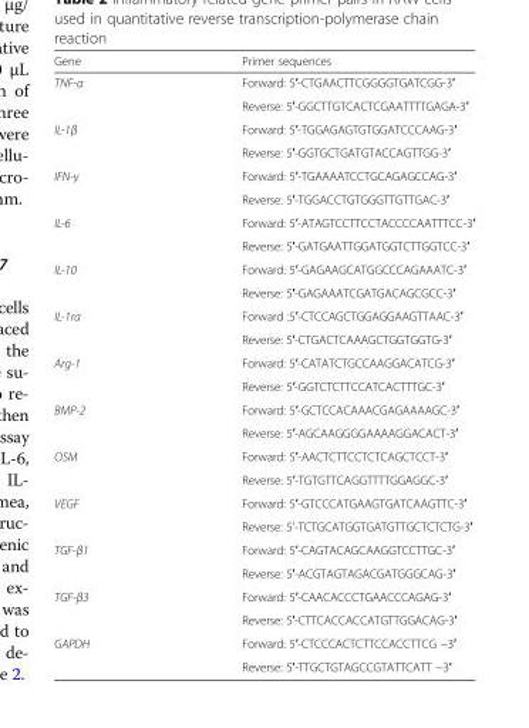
<table><thead><tr><td>Gene</td><td>Primer sequences</td></tr></thead><tbody><tr><td rowspan="2">TNF-α</td><td>Forward: 5′-CTGAACTTCGGGGTGATCGG-3′</td></tr><tr><td>Reverse: 5′-GGCTTGTCACTCGAATTTTGAGA-3′</td></tr><tr><td rowspan="2">IL-1β</td><td>Forward: 5′-TGGAGAGTGTGGATCCCAAG-3′</td></tr><tr><td>Reverse: 5′-GGTGCTGATGTACCAGTTGG-3′</td></tr><tr><td rowspan="2">IFN-γ</td><td>Forward: 5′-TGAAAATCCTGCAGAGCCAG-3′</td></tr><tr><td>Reverse: 5′-TGGACCTGTGGGTTGTTGAC-3′</td></tr><tr><td rowspan="2">IL-6</td><td>Forward: 5′-ATAGTCCTTCCTACCCCAATTTCC-3′</td></tr><tr><td>Reverse: 5′-GATGAATTGGATGGTCTTGGTCC-3′</td></tr><tr><td rowspan="2">IL-10</td><td>Forward: 5′-GAGAAGCATGGCCCAGAAATC-3′</td></tr><tr><td>Reverse: 5′-GAGAAATCGATGACAGCGCC-3′</td></tr><tr><td rowspan="2">IL-1ra</td><td>Forward :5′-CTCCAGCTGGAGGAAGTTAAC-3′</td></tr><tr><td>Reverse: 5′-CTGACTCAAAGCTGGTGGTG-3′</td></tr><tr><td rowspan="2">Arg-1</td><td>Forward: 5′-CATATCTGCCAAGGACATCG-3′</td></tr><tr><td>Reverse: 5′-GGTCTCTTCCATCACTTTGC-3′</td></tr><tr><td rowspan="2">BMP-2</td><td>Forward: 5′-GCTCCACAAACGAGAAAAGC-3′</td></tr><tr><td>Reverse: 5′-AGCAAGGGGAAAAGGACACT-3′</td></tr><tr><td rowspan="2">OSM</td><td>Forward: 5′-AACTCTTCCTCTCAGCTCCT-3′</td></tr><tr><td>Reverse: 5′-TGTGTTCAGGTTTTGGAGGC-3′</td></tr><tr><td rowspan="2">VEGF</td><td>Forward: 5′-GTCCCATGAAGTGATCAAGTTC-3′</td></tr><tr><td>Reverse: 5’-TCTGCATGGTGATGTTGCTCTCTG-3′</td></tr><tr><td rowspan="2">TGF-β1</td><td>Forward: 5′-CAGTACAGCAAGGTCCTTGC-3′</td></tr><tr><td>Reverse: 5′-ACGTAGTAGACGATGGGCAG-3′</td></tr><tr><td rowspan="2">TGF-β3</td><td>Forward: 5′-CAACACCCTGAACCCAGAG-3′</td></tr><tr><td>Reverse: 5′-CTTCACCACCATGTTGGACAG-3′</td></tr><tr><td rowspan="2">GAPDH</td><td>Forward: 5′-CTCCCACTCTTCCACCTTCG −3′</td></tr><tr><td>Reverse: 5′-TTGCTGTAGCCGTATTCATT −3′</td></tr></tbody></table>